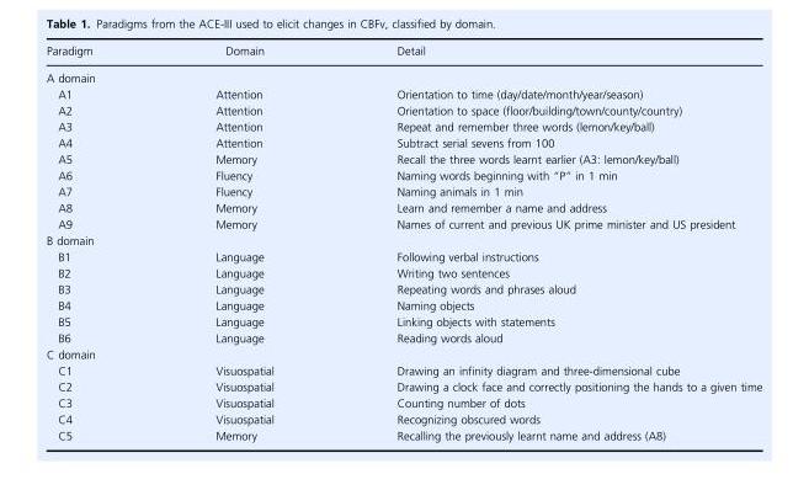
<table><thead><tr><td>Paradigm</td><td>Domain</td><td>Detail</td></tr></thead><tbody><tr><td colspan="3">A domain</td></tr><tr><td>A1</td><td>Attention</td><td>Orientation to time (day/date/month/year/season)</td></tr><tr><td>A2</td><td>Attention</td><td>Orientation to space (floor/building/town/county/country)</td></tr><tr><td>A3</td><td>Attention</td><td>Repeat and remember three words (lemon/key/ball)</td></tr><tr><td>A4</td><td>Attention</td><td>Subtract serial sevens from 100</td></tr><tr><td>A5</td><td>Memory</td><td>Recall the three words learnt earlier (A3: lemon/key/ball)</td></tr><tr><td>A6</td><td>Fluency</td><td>Naming words beginning with “P” in 1 min</td></tr><tr><td>A7</td><td>Fluency</td><td>Naming animals in 1 min</td></tr><tr><td>A8</td><td>Memory</td><td>Learn and remember a name and address</td></tr><tr><td>A9</td><td>Memory</td><td>Names of current and previous UK prime minister and US president</td></tr><tr><td colspan="3">B domain</td></tr><tr><td>B1</td><td>Language</td><td>Following verbal instructions</td></tr><tr><td>B2</td><td>Language</td><td>Writing two sentences</td></tr><tr><td>B3</td><td>Language</td><td>Repeating words and phrases aloud</td></tr><tr><td>B4</td><td>Language</td><td>Naming objects</td></tr><tr><td>B5</td><td>Language</td><td>Linking objects with statements</td></tr><tr><td>B6</td><td>Language</td><td>Reading words aloud</td></tr><tr><td colspan="3">C domain</td></tr><tr><td>C1</td><td>Visuospatial</td><td>Drawing an infinity diagram and three-dimensional cube</td></tr><tr><td>C2</td><td>Visuospatial</td><td>Drawing a clock face and correctly positioning the hands to a given time</td></tr><tr><td>C3</td><td>Visuospatial</td><td>Counting number of dots</td></tr><tr><td>C4</td><td>Visuospatial</td><td>Recognizing obscured words</td></tr><tr><td>C5</td><td>Memory</td><td>Recalling the previously learnt name and address (A8)</td></tr></tbody></table>